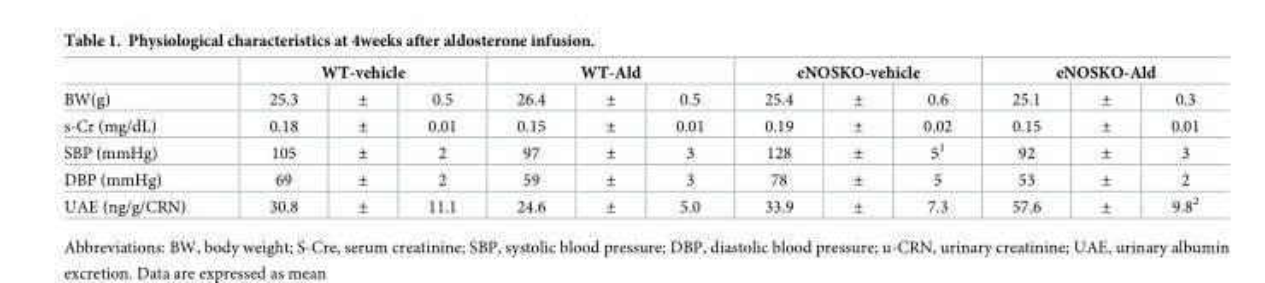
<table><thead><tr><td rowspan="2">BW(g)</td><td colspan="3">WT-vehicle</td><td colspan="3">WT-Ald</td><td colspan="3">eNOSKO-vehicle</td><td colspan="3">eNOSKO-Ald</td></tr><tr><td>25.3</td><td>±</td><td>0.5</td><td>26.4</td><td>±</td><td>0.5</td><td>25.4</td><td>±</td><td>0.6</td><td>25.1</td><td>±</td><td>0.3</td></tr></thead><tbody><tr><td>s-Cr (mg/dL)</td><td>0.18</td><td>±</td><td>0.01</td><td>0.15</td><td>±</td><td>0.01</td><td>0.19</td><td>±</td><td>0.02</td><td>0.15</td><td>±</td><td>0.01</td></tr><tr><td>SBP (mmHg)</td><td>105</td><td>±</td><td>2</td><td>97</td><td>±</td><td>3</td><td>128</td><td>±</td><td>5<sup>1</sup></td><td>92</td><td>±</td><td>3</td></tr><tr><td>DBP (mmHg)</td><td>69</td><td>±</td><td>2</td><td>59</td><td>±</td><td>3</td><td>78</td><td>±</td><td>5</td><td>53</td><td>±</td><td>2</td></tr><tr><td>UAE (ng/g/CRN)</td><td>30.8</td><td>±</td><td>11.1</td><td>24.6</td><td>±</td><td>5.0</td><td>33.9</td><td>±</td><td>7.3</td><td>57.6</td><td>±</td><td>9.8<sup>2</sup></td></tr></tbody></table>